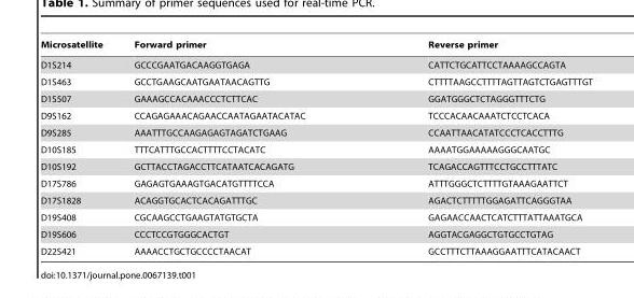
<table><thead><tr><td>Microsatellite</td><td>Forward primer</td><td>Reverse primer</td></tr></thead><tbody><tr><td>D1S214</td><td>GCCCGAATGACAAGGTGAGA</td><td>CATTCTGCATTCCTAAAAGCCAGTA</td></tr><tr><td>D1S463</td><td>GCCTGAAGCAATGAATAACAGTTG</td><td>CTTTTAAGCCTTTTAGTTAGTCTGAGTTTGT</td></tr><tr><td>D1S507</td><td>GAAAGCCACAAACCCTCTTCAC</td><td>GGATGGGCTCTAGGGTTTCTG</td></tr><tr><td>D9S162</td><td>CCAGAGAAACAGAACCAATAGAATACATAC</td><td>TCCCACAACAAATCTCCTCACA</td></tr><tr><td>D9S285</td><td>AAATTTGCCAAGAGAGTAGATCTGAAG</td><td>CCAATTAACATATCCCTCACCTTTG</td></tr><tr><td>D10S185</td><td>TTTCATTTGCCACTTTTCCTACATC</td><td>AAAATGGAAAAAGGGCAATGC</td></tr><tr><td>D10S192</td><td>GCTTACCTAGACCTTCATAATCACAGATG</td><td>TCAGACCAGTTTCCTGCCTTTATC</td></tr><tr><td>D17S786</td><td>GAGAGTGAAAGTGACATGTTTTCCA</td><td>ATTTGGGCTCTTTTGTAAAGAATTCT</td></tr><tr><td>D17S1828</td><td>ACAGGTGCACTCACAGATTTGC</td><td>AGACTCTTTTTGGAGATTCAGGGTAA</td></tr><tr><td>D19S408</td><td>CGCAAGCCTGAAGTATGTGCTA</td><td>GAGAACCAACTCATCTTTATTAAATGCA</td></tr><tr><td>D19S606</td><td>CCCTCCGTGGGCACTGT</td><td>AGGTACGAGGCTGTGCCTGTAG</td></tr><tr><td>D22S421</td><td>AAAACCTGCTGCCCCTAACAT</td><td>GCCTTTCTTAAAGGAATTTCATACAACT</td></tr></tbody></table>